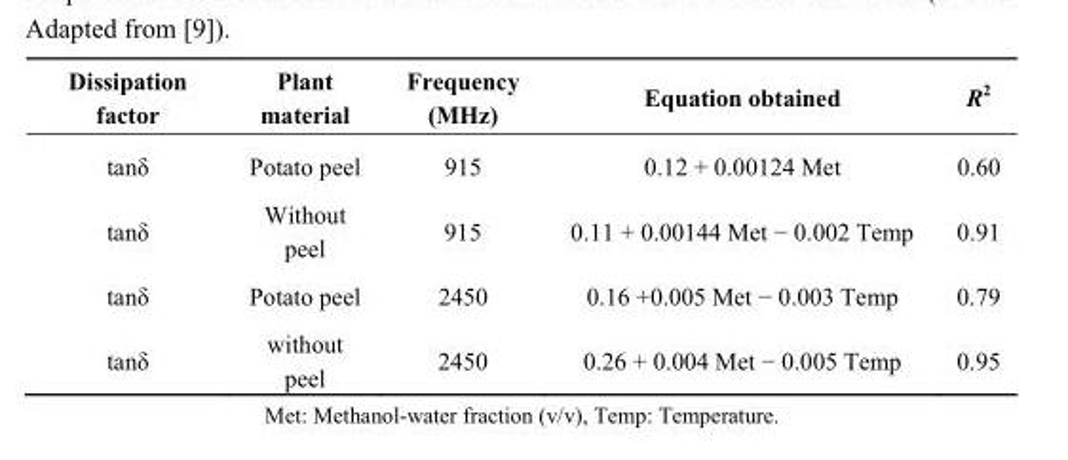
<table><thead><tr><td>Dissipation factor</td><td>Plant material</td><td>Frequency (MHz)</td><td>Equation obtained</td><td>R<sup>2</sup></td></tr></thead><tbody><tr><td>tanδ</td><td>Potato peel</td><td>915</td><td>0.12 + 0.00124 Met</td><td>0.60</td></tr><tr><td>tanδ</td><td>Without peel</td><td>915</td><td>0.11 + 0.00144 Met − 0.002 Temp</td><td>0.91</td></tr><tr><td>tanδ</td><td>Potato peel</td><td>2450</td><td>0.16 +0.005 Met − 0.003 Temp</td><td>0.79</td></tr><tr><td>tanδ</td><td>without peel</td><td>2450</td><td>0.26 + 0.004 Met − 0.005 Temp</td><td>0.95</td></tr></tbody></table>